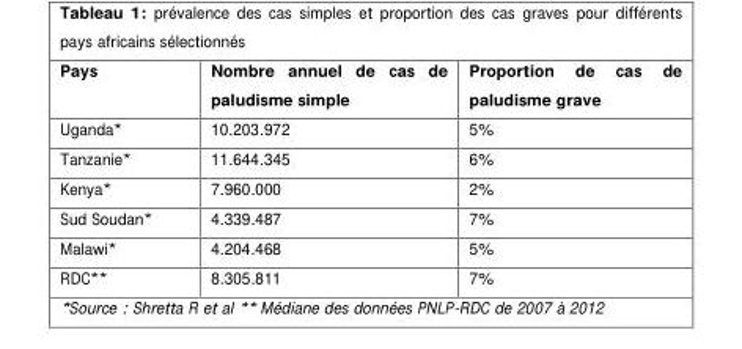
<table><thead><tr><td>Pays</td><td>Nombre annuel de cas de paludisme simple</td><td>Proportion de cas de paludisme grave</td></tr></thead><tbody><tr><td>Uganda*</td><td>10.203.972</td><td>5%</td></tr><tr><td>Tanzanie*</td><td>11.644.345</td><td>6%</td></tr><tr><td>Kenya*</td><td>7.960.000</td><td>2%</td></tr><tr><td>Sud Soudan*</td><td>4.339.487</td><td>7%</td></tr><tr><td>Malawi*</td><td>4.204.468</td><td>5%</td></tr><tr><td>RDC**</td><td>8.305.811</td><td>7%</td></tr></tbody></table>